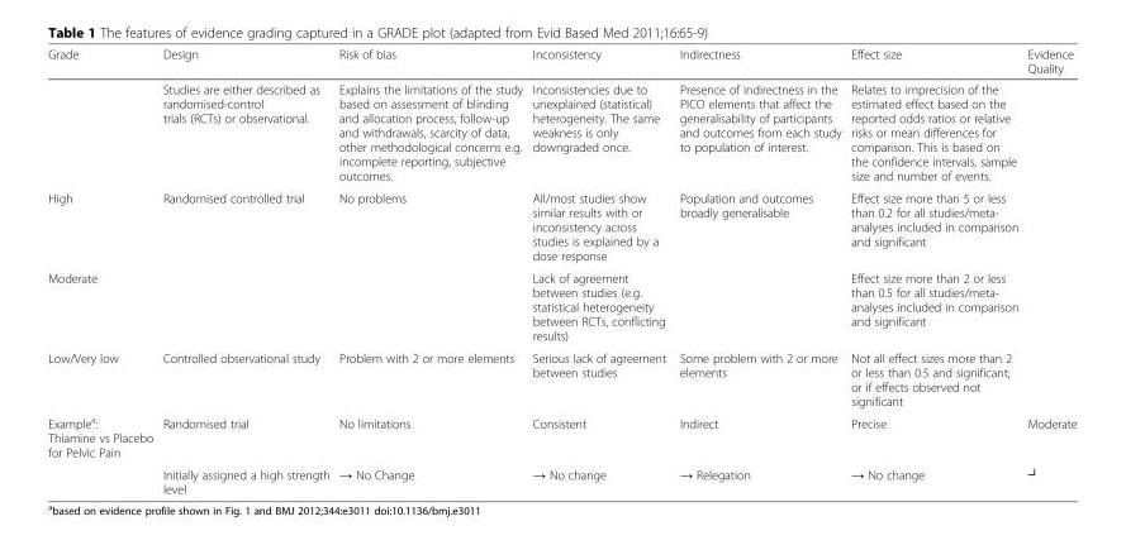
<table><thead><tr><td>Grade</td><td>Design</td><td>Risk of bias</td><td>Inconsistency</td><td>Indirectness</td><td>Effect size</td><td>Evidence Quality</td></tr></thead><tbody><tr><td></td><td>Studies are either described as randomised-control trials (RCTs) or observational.</td><td>Explains the limitations of the study based on assessment of blinding and allocation process, follow-up and withdrawals, scarcity of data, other methodological concerns e.g. incomplete reporting, subjective outcomes.</td><td>Inconsistencies due to unexplained (statistical) heterogeneity. The same weakness is only downgraded once.</td><td>Presence of indirectness in the PICO elements that affect the generalisability of participants and outcomes from each study to population of interest.</td><td>Relates to imprecision of the estimated effect based on the reported odds ratios or relative risks or mean differences for comparison. This is based on the confidence intervals, sample size and number of events.</td><td></td></tr><tr><td>High</td><td>Randomised controlled trial</td><td>No problems</td><td>All/most studies show similar results with or inconsistency across studies is explained by a dose response</td><td>Population and outcomes broadly generalisable</td><td>Effect size more than 5 or less than 0.2 for all studies/meta- analyses included in comparison and significant</td><td></td></tr><tr><td>Moderate</td><td></td><td></td><td>Lack of agreement between studies (e.g. statistical heterogeneity between RCTs, conflicting results)</td><td></td><td>Effect size more than 2 or less than 0.5 for all studies/meta- analyses included in comparison and significant</td><td></td></tr><tr><td>Low/Very low</td><td>Controlled observational study</td><td>Problem with 2 or more elements</td><td>Serious lack of agreement between studies</td><td>Some problem with 2 or more elements</td><td>Not all effect sizes more than 2 or less than 0.5 and significant; or if effects observed not significant</td><td></td></tr><tr><td rowspan="2">Example<sup>a</sup>: Thiamine vs Placebo for Pelvic Pain</td><td>Randomised trial</td><td>No limitations</td><td>Consistent</td><td>Indirect</td><td>Precise</td><td>Moderate</td></tr><tr><td>Initially assigned a high strength level</td><td>→ No Change</td><td>→ No change</td><td>→ Relegation</td><td>→ No change</td><td>┘</td></tr></tbody></table>